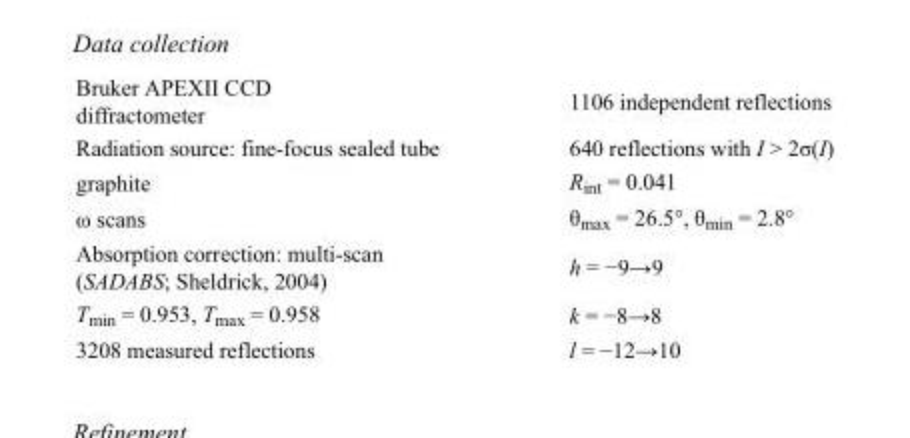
<table><tbody><tr><td>Bruker APEXII CCD diffractometer</td><td>1106 independent reflections</td></tr><tr><td>Radiation source: fine-focus sealed tube</td><td>640 reflections with I &gt; 2σ(I)</td></tr><tr><td>graphite</td><td>R<sub>int</sub> = 0.041</td></tr><tr><td>ω scans</td><td>θ<sub>max</sub> = 26.5°, θ<sub>min</sub> = 2.8°</td></tr><tr><td>Absorption correction: multi-scan (SADABS; Sheldrick, 2004)</td><td>h = −9→9</td></tr><tr><td>T<sub>min</sub> = 0.953, T<sub>max</sub> = 0.958</td><td>k = −8→8</td></tr><tr><td>3208 measured reflections</td><td>l = −12→10</td></tr></tbody></table>